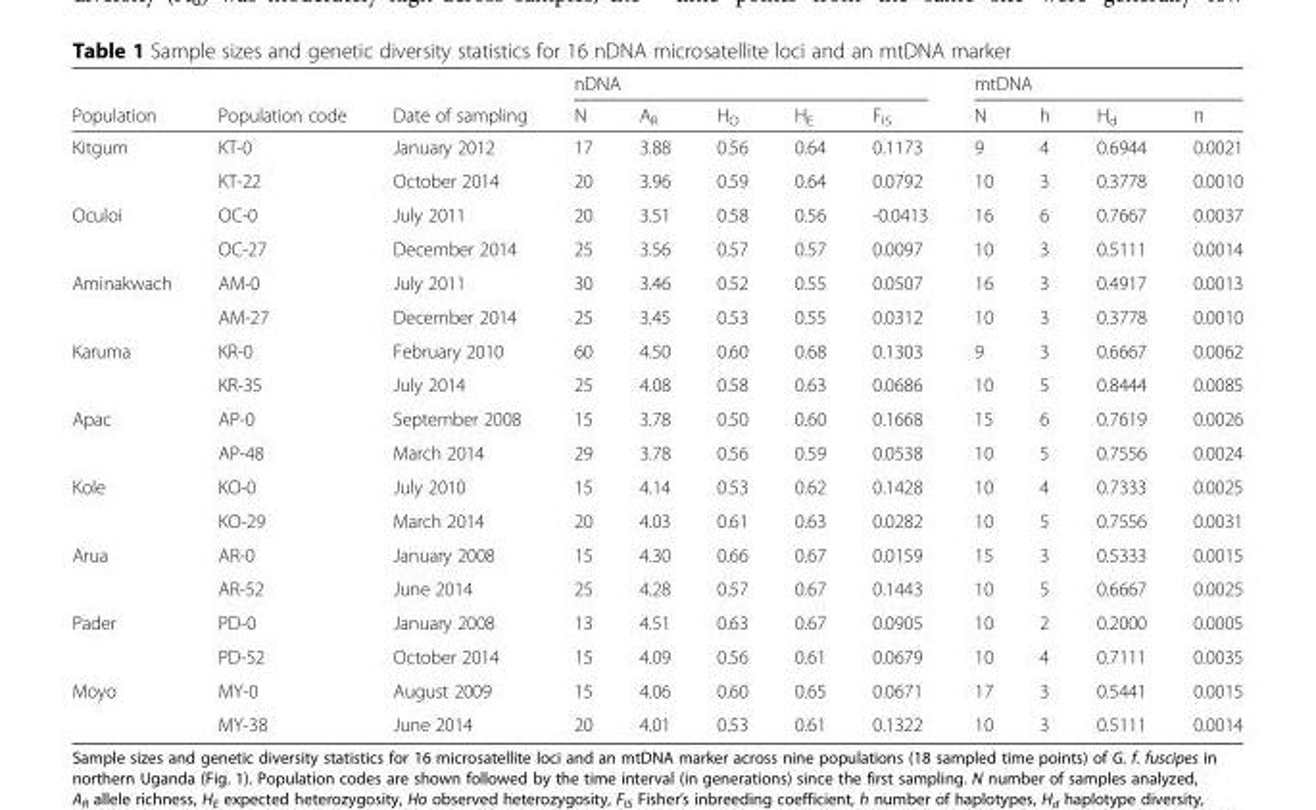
<table><thead><tr><td rowspan="2">Population</td><td rowspan="2">Population code</td><td rowspan="2">Date of sampling</td><td colspan="5">nDNA</td><td colspan="4">mtDNA</td></tr><tr><td>N</td><td>A<sub>R</sub></td><td>H<sub>O</sub></td><td>H<sub>E</sub></td><td>F<sub>IS</sub></td><td>N</td><td>h</td><td>H<sub>d</sub></td><td>π</td></tr></thead><tbody><tr><td rowspan="2">Kitgum</td><td>KT-0</td><td>January 2012</td><td>17</td><td>3.88</td><td>0.56</td><td>0.64</td><td>0.1173</td><td>9</td><td>4</td><td>0.6944</td><td>0.0021</td></tr><tr><td>KT-22</td><td>October 2014</td><td>20</td><td>3.96</td><td>0.59</td><td>0.64</td><td>0.0792</td><td>10</td><td>3</td><td>0.3778</td><td>0.0010</td></tr><tr><td rowspan="2">Oculoi</td><td>OC-0</td><td>July 2011</td><td>20</td><td>3.51</td><td>0.58</td><td>0.56</td><td>-0.0413</td><td>16</td><td>6</td><td>0.7667</td><td>0.0037</td></tr><tr><td>OC-27</td><td>December 2014</td><td>25</td><td>3.56</td><td>0.57</td><td>0.57</td><td>0.0097</td><td>10</td><td>3</td><td>0.5111</td><td>0.0014</td></tr><tr><td rowspan="2">Aminakwach</td><td>AM-0</td><td>July 2011</td><td>30</td><td>3.46</td><td>0.52</td><td>0.55</td><td>0.0507</td><td>16</td><td>3</td><td>0.4917</td><td>0.0013</td></tr><tr><td>AM-27</td><td>December 2014</td><td>25</td><td>3.45</td><td>0.53</td><td>0.55</td><td>0.0312</td><td>10</td><td>3</td><td>0.3778</td><td>0.0010</td></tr><tr><td rowspan="2">Karuma</td><td>KR-0</td><td>February 2010</td><td>60</td><td>4.50</td><td>0.60</td><td>0.68</td><td>0.1303</td><td>9</td><td>3</td><td>0.6667</td><td>0.0062</td></tr><tr><td>KR-35</td><td>July 2014</td><td>25</td><td>4.08</td><td>0.58</td><td>0.63</td><td>0.0686</td><td>10</td><td>5</td><td>0.8444</td><td>0.0085</td></tr><tr><td rowspan="2">Apac</td><td>AP-0</td><td>September 2008</td><td>15</td><td>3.78</td><td>0.50</td><td>0.60</td><td>0.1668</td><td>15</td><td>6</td><td>0.7619</td><td>0.0026</td></tr><tr><td>AP-48</td><td>March 2014</td><td>29</td><td>3.78</td><td>0.56</td><td>0.59</td><td>0.0538</td><td>10</td><td>5</td><td>0.7556</td><td>0.0024</td></tr><tr><td rowspan="2">Kole</td><td>KO-0</td><td>July 2010</td><td>15</td><td>4.14</td><td>0.53</td><td>0.62</td><td>0.1428</td><td>10</td><td>4</td><td>0.7333</td><td>0.0025</td></tr><tr><td>KO-29</td><td>March 2014</td><td>20</td><td>4.03</td><td>0.61</td><td>0.63</td><td>0.0282</td><td>10</td><td>5</td><td>0.7556</td><td>0.0031</td></tr><tr><td rowspan="2">Arua</td><td>AR-0</td><td>January 2008</td><td>15</td><td>4.30</td><td>0.66</td><td>0.67</td><td>0.0159</td><td>15</td><td>3</td><td>0.5333</td><td>0.0015</td></tr><tr><td>AR-52</td><td>June 2014</td><td>25</td><td>4.28</td><td>0.57</td><td>0.67</td><td>0.1443</td><td>10</td><td>5</td><td>0.6667</td><td>0.0025</td></tr><tr><td rowspan="2">Pader</td><td>PD-0</td><td>January 2008</td><td>13</td><td>4.51</td><td>0.63</td><td>0.67</td><td>0.0905</td><td>10</td><td>2</td><td>0.2000</td><td>0.0005</td></tr><tr><td>PD-52</td><td>October 2014</td><td>15</td><td>4.09</td><td>0.56</td><td>0.61</td><td>0.0679</td><td>10</td><td>4</td><td>0.7111</td><td>0.0035</td></tr><tr><td rowspan="2">Moyo</td><td>MY-0</td><td>August 2009</td><td>15</td><td>4.06</td><td>0.60</td><td>0.65</td><td>0.0671</td><td>17</td><td>3</td><td>0.5441</td><td>0.0015</td></tr><tr><td>MY-38</td><td>June 2014</td><td>20</td><td>4.01</td><td>0.53</td><td>0.61</td><td>0.1322</td><td>10</td><td>3</td><td>0.5111</td><td>0.0014</td></tr></tbody></table>